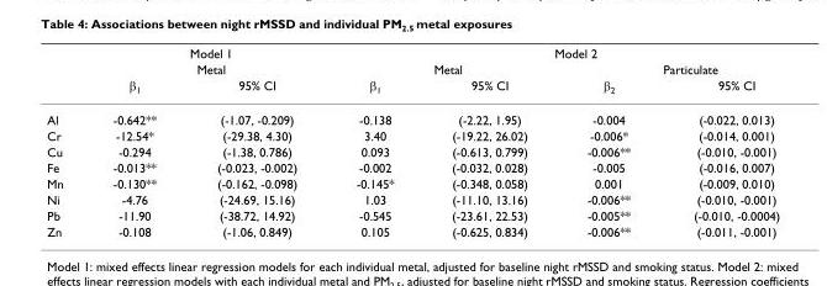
<table><thead><tr><td rowspan="3"></td><td rowspan="2" colspan="2">Model 1 Metal</td><td colspan="4">Model 2</td></tr><tr><td colspan="2">Metal</td><td colspan="2">Particulate</td></tr><tr><td>β<sub>1</sub></td><td>95% CI</td><td>β<sub>1</sub></td><td>95% CI</td><td>β<sub>2</sub></td><td>95% CI</td></tr></thead><tbody><tr><td>Al</td><td>-0.642**</td><td>(-1.07, -0.209)</td><td>-0.138</td><td>(-2.22, 1.95)</td><td>-0.004</td><td>(-0.022, 0.013)</td></tr><tr><td>Cr</td><td>-12.54*</td><td>(-29.38, 4.30)</td><td>3.40</td><td>(-19.22, 26.02)</td><td>-0.006*</td><td>(-0.014, 0.001)</td></tr><tr><td>Cu</td><td>-0.294</td><td>(-1.38, 0.786)</td><td>0.093</td><td>(-0.613, 0.799)</td><td>-0.006**</td><td>(-0.010, -0.001)</td></tr><tr><td>Fe</td><td>-0.013**</td><td>(-0.023, -0.002)</td><td>-0.002</td><td>(-0.032, 0.028)</td><td>-0.005</td><td>(-0.016, 0.007)</td></tr><tr><td>Mn</td><td>-0.130**</td><td>(-0.162, -0.098)</td><td>-0.145*</td><td>(-0.348, 0.058)</td><td>0.001</td><td>(-0.009, 0.010)</td></tr><tr><td>Ni</td><td>-4.76</td><td>(-24.69, 15.16)</td><td>1.03</td><td>(-11.10, 13.16)</td><td>-0.006**</td><td>(-0.010, -0.001)</td></tr><tr><td>Pb</td><td>-11.90</td><td>(-38.72, 14.92)</td><td>-0.545</td><td>(-23.61, 22.53)</td><td>-0.005**</td><td>(-0.010, -0.0004)</td></tr><tr><td>Zn</td><td>-0.108</td><td>(-1.06, 0.849)</td><td>0.105</td><td>(-0.625, 0.834)</td><td>-0.006**</td><td>(-0.011, -0.001)</td></tr></tbody></table>